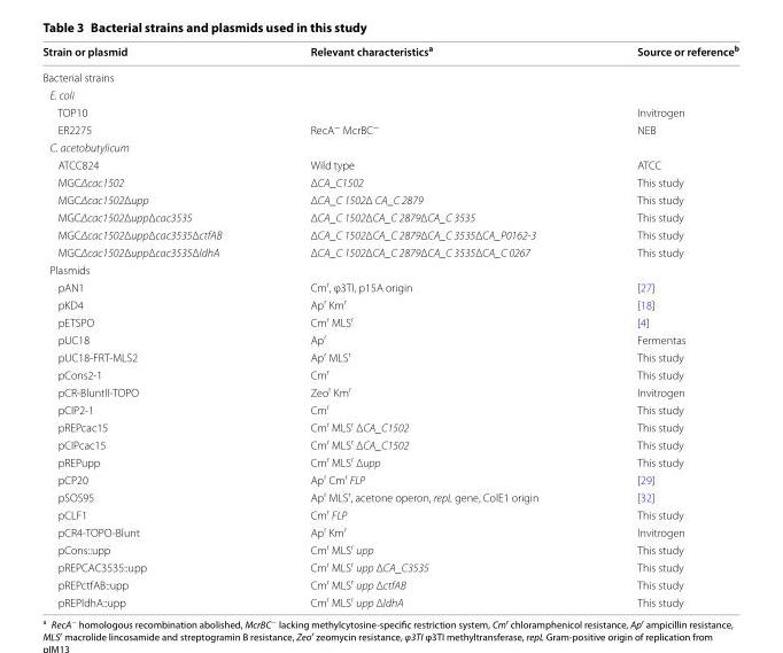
<table><thead><tr><td>Strain or plasmid</td><td>Relevant characteristics<sup>a</sup></td><td>Source or reference<sup>b</sup></td></tr></thead><tbody><tr><td colspan="3">Bacterial strains</td></tr><tr><td colspan="3">E. coli</td></tr><tr><td>TOP10</td><td></td><td>Invitrogen</td></tr><tr><td>ER2275</td><td>RecA<sup>−</sup> McrBC<sup>−</sup></td><td>NEB</td></tr><tr><td colspan="3">C. acetobutylicum</td></tr><tr><td>ATCC824</td><td>Wild type</td><td>ATCC</td></tr><tr><td>MGCΔcac1502</td><td>ΔCA_C1502</td><td>This study</td></tr><tr><td>MGCΔcac1502Δupp</td><td>ΔCA_C 1502Δ CA_C 2879</td><td>This study</td></tr><tr><td>MGCΔcac1502ΔuppΔcac3535</td><td>ΔCA_C 1502ΔCA_C 2879ΔCA_C 3535</td><td>This study</td></tr><tr><td>MGCΔcac1502ΔuppΔcac3535ΔctfAB</td><td>ΔCA_C 1502ΔCA_C 2879ΔCA_C 3535ΔCA_P0162‑3</td><td>This study</td></tr><tr><td>MGCΔcac1502ΔuppΔcac3535ΔldhA</td><td>ΔCA_C 1502ΔCA_C 2879ΔCA_C 3535ΔCA_C 0267</td><td>This study</td></tr><tr><td colspan="3">Plasmids</td></tr><tr><td>pAN1</td><td>Cm<sup>r</sup>, φ3TI, p15A origin</td><td>[27]</td></tr><tr><td>pKD4</td><td>Ap<sup>r</sup> Km<sup>r</sup></td><td>[18]</td></tr><tr><td>pETSPO</td><td>Cm<sup>r</sup> MLS<sup>r</sup></td><td>[4]</td></tr><tr><td>pUC18</td><td>Ap<sup>r</sup></td><td>Fermentas</td></tr><tr><td>pUC18‑FRT‑MLS2</td><td>Ap<sup>r</sup> MLS<sup>r</sup></td><td>This study</td></tr><tr><td>pCons2‑1</td><td>Cm<sup>r</sup></td><td>This study</td></tr><tr><td>pCR‑BluntII‑TOPO</td><td>Zeo<sup>r</sup> Km<sup>r</sup></td><td>Invitrogen</td></tr><tr><td>pCIP2‑1</td><td>Cm<sup>r</sup></td><td>This study</td></tr><tr><td>pREPcac15</td><td>Cm<sup>r</sup> MLS<sup>r</sup> ΔCA_C1502</td><td>This study</td></tr><tr><td>pCIPcac15</td><td>Cm<sup>r</sup> MLS<sup>r</sup> ΔCA_C1502</td><td>This study</td></tr><tr><td>pREPupp</td><td>Cm<sup>r</sup> MLS<sup>r</sup> Δupp</td><td>This study</td></tr><tr><td>pCP20</td><td>Ap<sup>r</sup> Cm<sup>r</sup> FLP</td><td>[29]</td></tr><tr><td>pSOS95</td><td>Ap<sup>r</sup> MLS<sup>r</sup>, acetone operon, repL gene, ColE1 origin</td><td>[32]</td></tr><tr><td>pCLF1</td><td>Cm<sup>r</sup> FLP</td><td>This study</td></tr><tr><td>pCR4‑TOPO‑Blunt</td><td>Ap<sup>r</sup> Km<sup>r</sup></td><td>Invitrogen</td></tr><tr><td>pCons::upp</td><td>Cm<sup>r</sup> MLS<sup>r</sup> upp</td><td>This study</td></tr><tr><td>pREPCAC3535::upp</td><td>Cm<sup>r</sup> MLS<sup>r</sup> upp ΔCA_C3535</td><td>This study</td></tr><tr><td>pREPctfAB::upp</td><td>Cm<sup>r</sup> MLS<sup>r</sup> upp ΔctfAB</td><td>This study</td></tr><tr><td>pREPldhA::upp</td><td>Cm<sup>r</sup> MLS<sup>r</sup> upp ΔldhA</td><td>This study</td></tr></tbody></table>